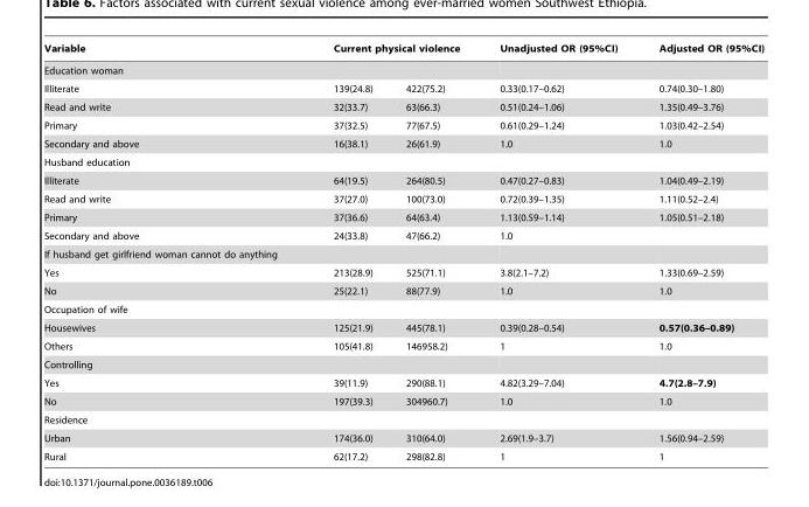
<table><thead><tr><td rowspan="2">Variable Education woman</td><td colspan="2">Current physical violence</td><td rowspan="2">Unadjusted OR (95%CI)</td><td rowspan="2">Adjusted OR (95%CI)</td></tr><tr><td></td><td></td></tr></thead><tbody><tr><td>Illiterate</td><td>139(24.8)</td><td>422(75.2)</td><td>0.33(0.17–0.62)</td><td>0.74(0.30–1.80)</td></tr><tr><td>Read and write</td><td>32(33.7)</td><td>63(66.3)</td><td>0.51(0.24–1.06)</td><td>1.35(0.49–3.76)</td></tr><tr><td>Primary</td><td>37(32.5)</td><td>77(67.5)</td><td>0.61(0.29–1.24)</td><td>1.03(0.42–2.54)</td></tr><tr><td>Secondary and above</td><td>16(38.1)</td><td>26(61.9)</td><td>1.0</td><td>1.0</td></tr><tr><td colspan="5">Husband education</td></tr><tr><td>Illiterate</td><td>64(19.5)</td><td>264(80.5)</td><td>0.47(0.27–0.83)</td><td>1.04(0.49–2.19)</td></tr><tr><td>Read and write</td><td>37(27.0)</td><td>100(73.0)</td><td>0.72(0.39–1.35)</td><td>1.11(0.52–2.4)</td></tr><tr><td>Primary</td><td>37(36.6)</td><td>64(63.4)</td><td>1.13(0.59–1.14)</td><td>1.05(0.51–2.18)</td></tr><tr><td>Secondary and above</td><td>24(33.8)</td><td>47(66.2)</td><td>1.0</td><td></td></tr><tr><td colspan="5">If husband get girlfriend woman cannot do anything</td></tr><tr><td>Yes</td><td>213(28.9)</td><td>525(71.1)</td><td>3.8(2.1–7.2)</td><td>1.33(0.69–2.59)</td></tr><tr><td>No</td><td>25(22.1)</td><td>88(77.9)</td><td>1.0</td><td>1.0</td></tr><tr><td colspan="5">Occupation of wife</td></tr><tr><td>Housewives</td><td>125(21.9)</td><td>445(78.1)</td><td>0.39(0.28–0.54)</td><td>0.57(0.36–0.89)</td></tr><tr><td>Others</td><td>105(41.8)</td><td>146958.2)</td><td>1</td><td>1.0</td></tr><tr><td colspan="5">Controlling</td></tr><tr><td>Yes</td><td>39(11.9)</td><td>290(88.1)</td><td>4.82(3.29–7.04)</td><td>4.7(2.8–7.9)</td></tr><tr><td>No</td><td>197(39.3)</td><td>304960.7)</td><td>1.0</td><td>1.0</td></tr><tr><td colspan="5">Residence</td></tr><tr><td>Urban</td><td>174(36.0)</td><td>310(64.0)</td><td>2.69(1.9–3.7)</td><td>1.56(0.94–2.59)</td></tr><tr><td>Rural</td><td>62(17.2)</td><td>298(82.8)</td><td>1</td><td>1</td></tr></tbody></table>